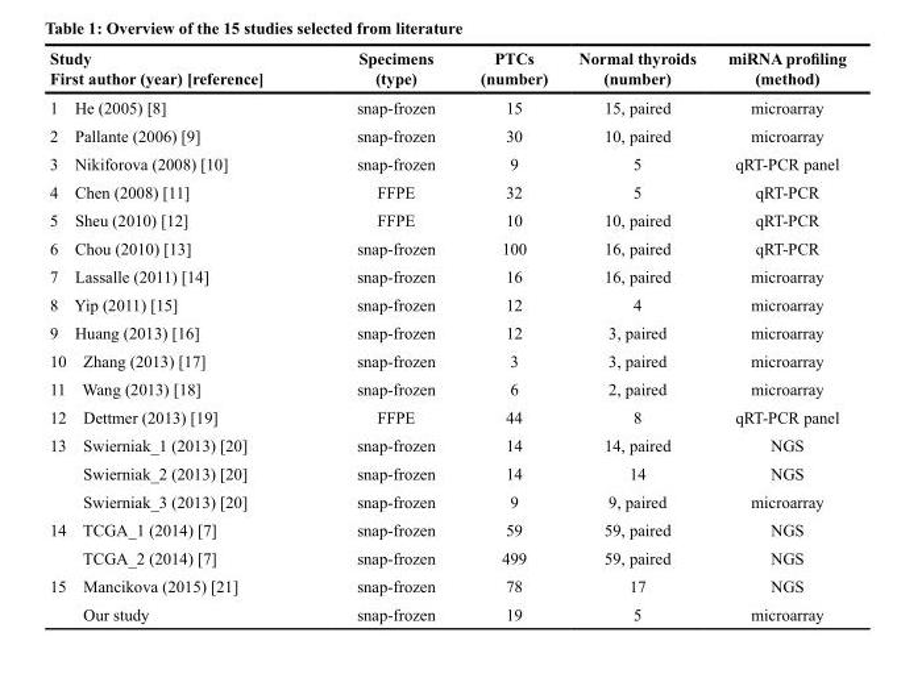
<table><thead><tr><td>Study First author (year) [reference]</td><td>Specimens (type)</td><td>PTCs (number)</td><td>Normal thyroids (number)</td><td>miRNA profiling (method)</td></tr></thead><tbody><tr><td>1 He (2005) [8]</td><td>snap-frozen</td><td>15</td><td>15, paired</td><td>microarray</td></tr><tr><td>2 Pallante (2006) [9]</td><td>snap-frozen</td><td>30</td><td>10, paired</td><td>microarray</td></tr><tr><td>3 Nikiforova (2008) [10]</td><td>snap-frozen</td><td>9</td><td>5</td><td>qRT-PCR panel</td></tr><tr><td>4 Chen (2008) [11]</td><td>FFPE</td><td>32</td><td>5</td><td>qRT-PCR</td></tr><tr><td>5 Sheu (2010) [12]</td><td>FFPE</td><td>10</td><td>10, paired</td><td>qRT-PCR</td></tr><tr><td>6 Chou (2010) [13]</td><td>snap-frozen</td><td>100</td><td>16, paired</td><td>qRT-PCR</td></tr><tr><td>7 Lassalle (2011) [14]</td><td>snap-frozen</td><td>16</td><td>16, paired</td><td>microarray</td></tr><tr><td>8 Yip (2011) [15]</td><td>snap-frozen</td><td>12</td><td>4</td><td>microarray</td></tr><tr><td>9 Huang (2013) [16]</td><td>snap-frozen</td><td>12</td><td>3, paired</td><td>microarray</td></tr><tr><td>10 Zhang (2013) [17]</td><td>snap-frozen</td><td>3</td><td>3, paired</td><td>microarray</td></tr><tr><td>11 Wang (2013) [18]</td><td>snap-frozen</td><td>6</td><td>2, paired</td><td>microarray</td></tr><tr><td>12 Dettmer (2013) [19]</td><td>FFPE</td><td>44</td><td>8</td><td>qRT-PCR panel</td></tr><tr><td>13 Swierniak_1 (2013) [20]</td><td>snap-frozen</td><td>14</td><td>14, paired</td><td>NGS</td></tr><tr><td>Swierniak_2 (2013) [20]</td><td>snap-frozen</td><td>14</td><td>14</td><td>NGS</td></tr><tr><td>Swierniak_3 (2013) [20]</td><td>snap-frozen</td><td>9</td><td>9, paired</td><td>microarray</td></tr><tr><td>14 TCGA_1 (2014) [7]</td><td>snap-frozen</td><td>59</td><td>59, paired</td><td>NGS</td></tr><tr><td>TCGA_2 (2014) [7]</td><td>snap-frozen</td><td>499</td><td>59, paired</td><td>NGS</td></tr><tr><td>15 Mancikova (2015) [21]</td><td>snap-frozen</td><td>78</td><td>17</td><td>NGS</td></tr><tr><td>Our study</td><td>snap-frozen</td><td>19</td><td>5</td><td>microarray</td></tr></tbody></table>